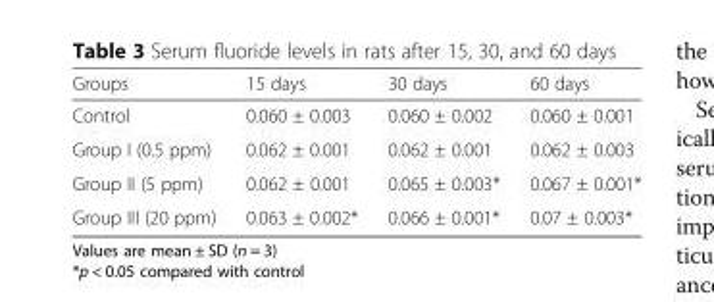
<table><thead><tr><td>Groups</td><td>15 days</td><td>30 days</td><td>60 days</td></tr></thead><tbody><tr><td>Control</td><td>0.060 ± 0.003</td><td>0.060 ± 0.002</td><td>0.060 ± 0.001</td></tr><tr><td>Group I (0.5 ppm)</td><td>0.062 ± 0.001</td><td>0.062 ± 0.001</td><td>0.062 ± 0.003</td></tr><tr><td>Group II (5 ppm)</td><td>0.062 ± 0.001</td><td>0.065 ± 0.003*</td><td>0.067 ± 0.001*</td></tr><tr><td>Group III (20 ppm)</td><td>0.063 ± 0.002*</td><td>0.066 ± 0.001*</td><td>0.07 ± 0.003*</td></tr></tbody></table>